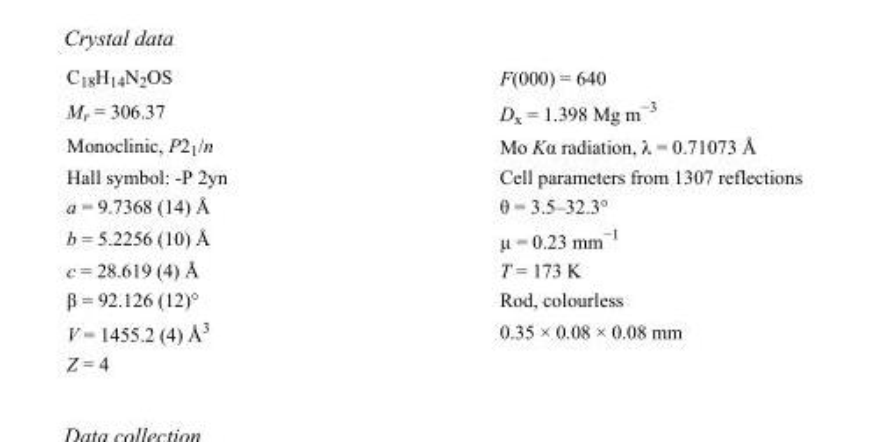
<table><tbody><tr><td>C<sub>18</sub>H<sub>14</sub>N<sub>2</sub>OS</td><td>F(000) = 640</td></tr><tr><td>M<sub>r</sub> = 306.37</td><td>D<sub>x</sub> = 1.398 Mg m<sup>−3</sup></td></tr><tr><td>Monoclinic, P2<sub>1</sub>/n</td><td>Mo Kα radiation, λ = 0.71073 Å</td></tr><tr><td>Hall symbol: -P 2yn</td><td>Cell parameters from 1307 reflections</td></tr><tr><td>a = 9.7368 (14) Å</td><td>θ = 3.5–32.3°</td></tr><tr><td>b = 5.2256 (10) Å</td><td>µ = 0.23 mm<sup>−1</sup></td></tr><tr><td>c = 28.619 (4) Å</td><td>T = 173 K</td></tr><tr><td>β = 92.126 (12)°</td><td>Rod, colourless</td></tr><tr><td>V = 1455.2 (4) Å<sup>3</sup></td><td>0.35 × 0.08 × 0.08 mm</td></tr><tr><td>Z = 4</td><td></td></tr></tbody></table>